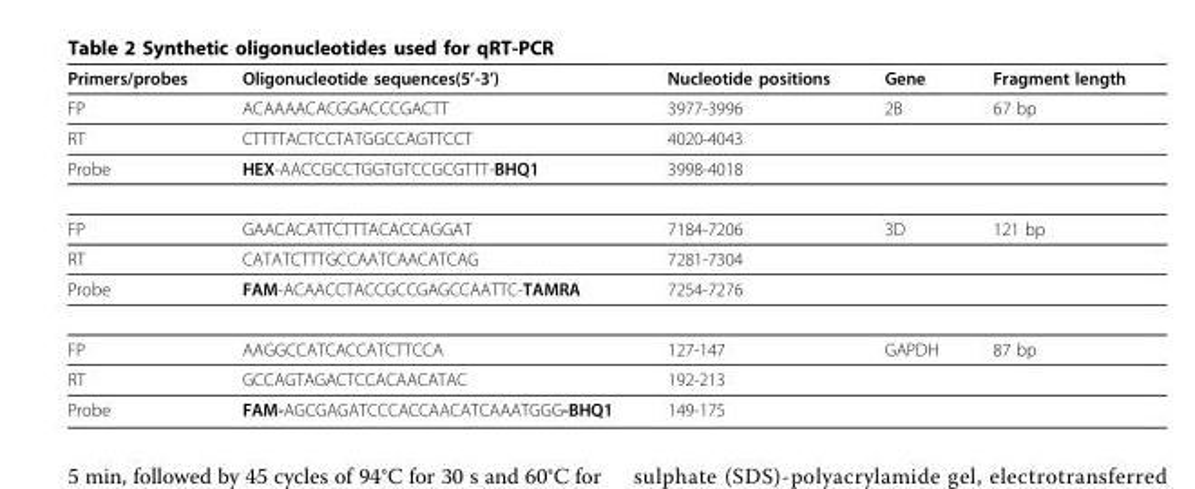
<table><thead><tr><td>Primers/probes</td><td>Oligonucleotide sequences(5’-3’)</td><td>Nucleotide positions</td><td>Gene</td><td>Fragment length</td></tr></thead><tbody><tr><td>FP</td><td>ACAAAACACGGACCCGACTT</td><td>3977-3996</td><td>2B</td><td>67 bp</td></tr><tr><td>RT</td><td>CTTTTACTCCTATGGCCAGTTCCT</td><td>4020-4043</td><td></td><td></td></tr><tr><td>Probe</td><td>HEX-AACCGCCTGGTGTCCGCGTTT-BHQ1</td><td>3998-4018</td><td></td><td></td></tr><tr><td>FP</td><td>GAACACATTCTTTACACCAGGAT</td><td>7184-7206</td><td>3D</td><td>121 bp</td></tr><tr><td>RT</td><td>CATATCTTTGCCAATCAACATCAG</td><td>7281-7304</td><td></td><td></td></tr><tr><td>Probe</td><td>FAM-ACAACCTACCGCCGAGCCAATTC-TAMRA</td><td>7254-7276</td><td></td><td></td></tr><tr><td>FP</td><td>AAGGCCATCACCATCTTCCA</td><td>127-147</td><td>GAPDH</td><td>87 bp</td></tr><tr><td>RT</td><td>GCCAGTAGACTCCACAACATAC</td><td>192-213</td><td></td><td></td></tr><tr><td>Probe</td><td>FAM-AGCGAGATCCCACCAACATCAAATGGG-BHQ1</td><td>149-175</td><td></td><td></td></tr></tbody></table>